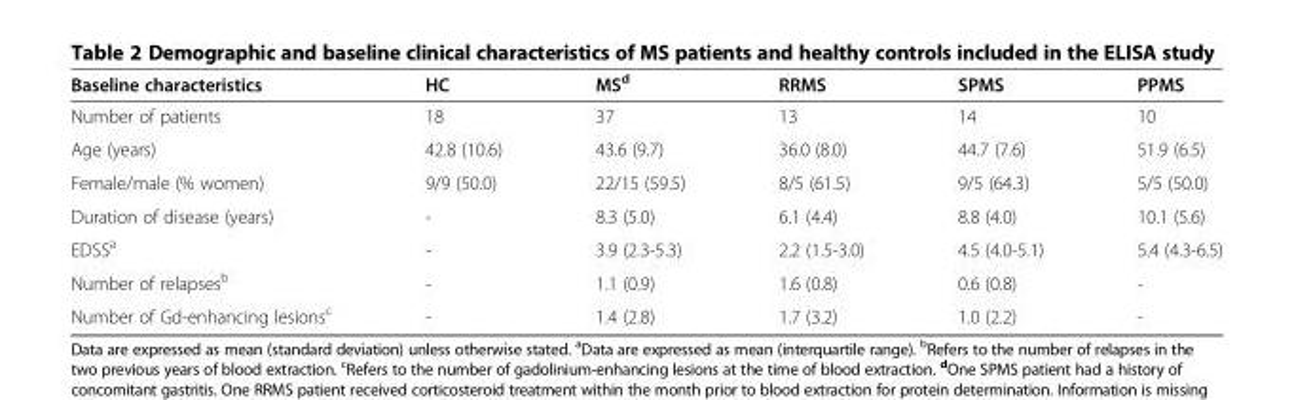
<table><thead><tr><td>Baseline characteristics</td><td>HC</td><td>MS<sup>d</sup></td><td>RRMS</td><td>SPMS</td><td>PPMS</td></tr></thead><tbody><tr><td>Number of patients</td><td>18</td><td>37</td><td>13</td><td>14</td><td>10</td></tr><tr><td>Age (years)</td><td>42.8 (10.6)</td><td>43.6 (9.7)</td><td>36.0 (8.0)</td><td>44.7 (7.6)</td><td>51.9 (6.5)</td></tr><tr><td>Female/male (% women)</td><td>9/9 (50.0)</td><td>22/15 (59.5)</td><td>8/5 (61.5)</td><td>9/5 (64.3)</td><td>5/5 (50.0)</td></tr><tr><td>Duration of disease (years)</td><td>-</td><td>8.3 (5.0)</td><td>6.1 (4.4)</td><td>8.8 (4.0)</td><td>10.1 (5.6)</td></tr><tr><td>EDSS<sup>a</sup></td><td>-</td><td>3.9 (2.3-5.3)</td><td>2.2 (1.5-3.0)</td><td>4.5 (4.0-5.1)</td><td>5.4 (4.3-6.5)</td></tr><tr><td>Number of relapses<sup>b</sup></td><td>-</td><td>1.1 (0.9)</td><td>1.6 (0.8)</td><td>0.6 (0.8)</td><td>-</td></tr><tr><td>Number of Gd-enhancing lesions<sup>c</sup></td><td>-</td><td>1.4 (2.8)</td><td>1.7 (3.2)</td><td>1.0 (2.2)</td><td>-</td></tr></tbody></table>